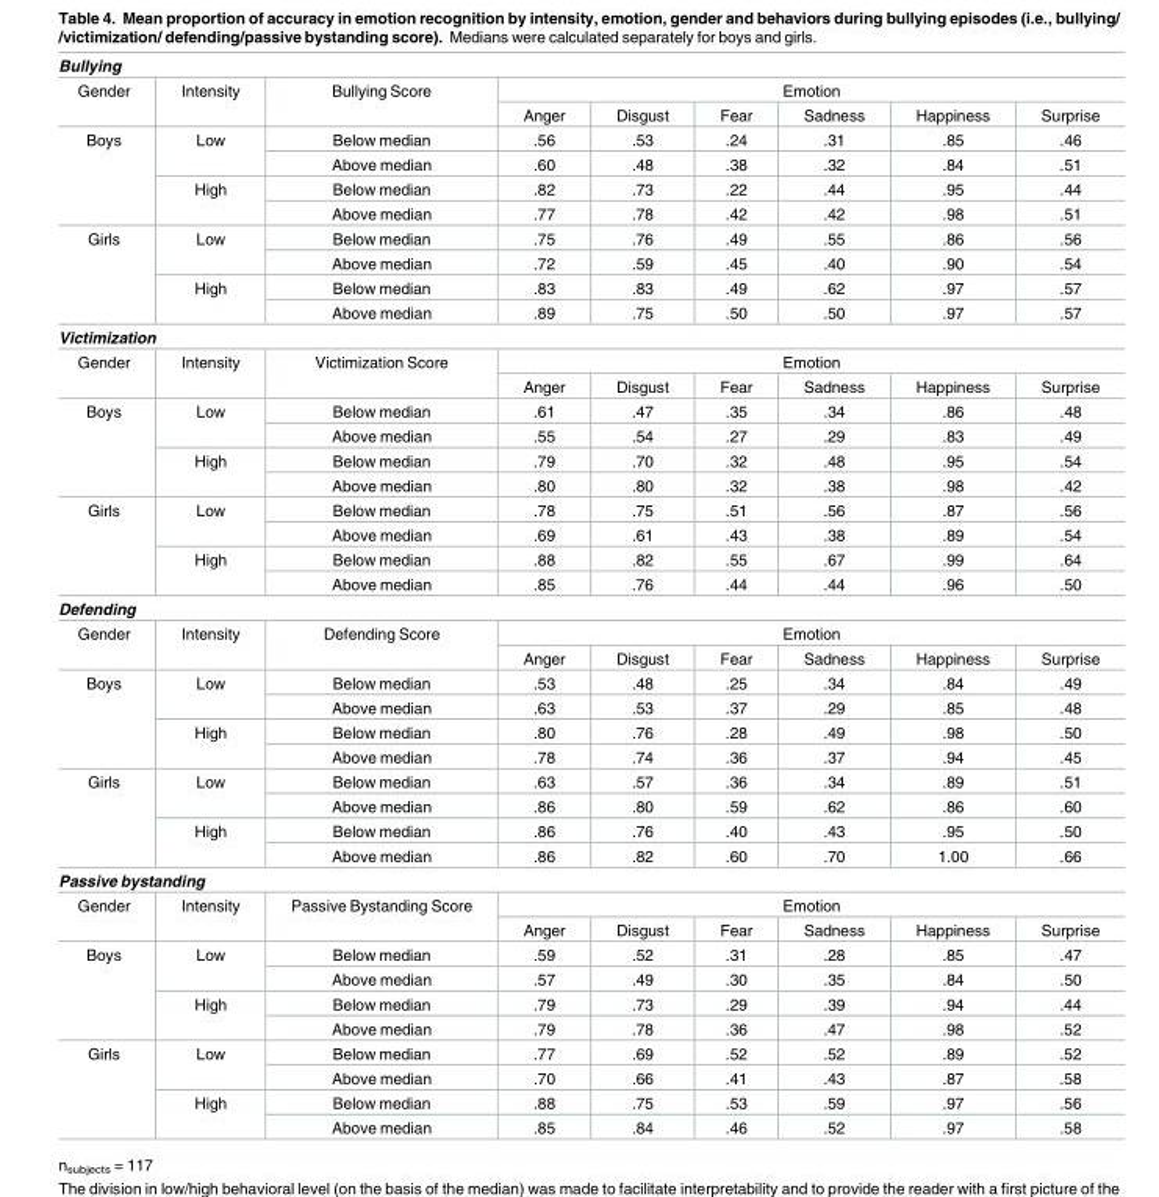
<table><tbody><tr><td colspan="9">Bullying</td></tr><tr><td rowspan="2">Gender</td><td rowspan="2">Intensity</td><td rowspan="2">Bullying Score</td><td colspan="6">Emotion</td></tr><tr><td>Anger</td><td>Disgust</td><td>Fear</td><td>Sadness</td><td>Happiness</td><td>Surprise</td></tr><tr><td rowspan="4">Boys</td><td rowspan="2">Low</td><td>Below median</td><td>.56</td><td>.53</td><td>.24</td><td>.31</td><td>.85</td><td>.46</td></tr><tr><td>Above median</td><td>.60</td><td>.48</td><td>.38</td><td>.32</td><td>.84</td><td>.51</td></tr><tr><td rowspan="2">High</td><td>Below median</td><td>.82</td><td>.73</td><td>.22</td><td>.44</td><td>.95</td><td>.44</td></tr><tr><td>Above median</td><td>.77</td><td>.78</td><td>.42</td><td>.42</td><td>.98</td><td>.51</td></tr><tr><td rowspan="4">Girls</td><td rowspan="2">Low</td><td>Below median</td><td>.75</td><td>.76</td><td>.49</td><td>.55</td><td>.86</td><td>.56</td></tr><tr><td>Above median</td><td>.72</td><td>.59</td><td>.45</td><td>.40</td><td>.90</td><td>.54</td></tr><tr><td rowspan="2">High</td><td>Below median</td><td>.83</td><td>.83</td><td>.49</td><td>.62</td><td>.97</td><td>.57</td></tr><tr><td>Above median</td><td>.89</td><td>.75</td><td>.50</td><td>.50</td><td>.97</td><td>.57</td></tr><tr><td colspan="9">Victimization</td></tr><tr><td rowspan="2">Gender</td><td rowspan="2">Intensity</td><td rowspan="2">Victimization Score</td><td colspan="6">Emotion</td></tr><tr><td>Anger</td><td>Disgust</td><td>Fear</td><td>Sadness</td><td>Happiness</td><td>Surprise</td></tr><tr><td rowspan="4">Boys</td><td rowspan="2">Low</td><td>Below median</td><td>.61</td><td>.47</td><td>.35</td><td>.34</td><td>.86</td><td>.48</td></tr><tr><td>Above median</td><td>.55</td><td>.54</td><td>.27</td><td>.29</td><td>.83</td><td>.49</td></tr><tr><td rowspan="2">High</td><td>Below median</td><td>.79</td><td>.70</td><td>.32</td><td>.48</td><td>.95</td><td>.54</td></tr><tr><td>Above median</td><td>.80</td><td>.80</td><td>.32</td><td>.38</td><td>.98</td><td>.42</td></tr><tr><td rowspan="4">Girls</td><td rowspan="2">Low</td><td>Below median</td><td>.78</td><td>.75</td><td>.51</td><td>.56</td><td>.87</td><td>.56</td></tr><tr><td>Above median</td><td>.69</td><td>.61</td><td>.43</td><td>.38</td><td>.89</td><td>.54</td></tr><tr><td rowspan="2">High</td><td>Below median</td><td>.88</td><td>.82</td><td>.55</td><td>.67</td><td>.99</td><td>.64</td></tr><tr><td>Above median</td><td>.85</td><td>.76</td><td>.44</td><td>.44</td><td>.96</td><td>.50</td></tr><tr><td colspan="9">Defending</td></tr><tr><td rowspan="2">Gender</td><td rowspan="2">Intensity</td><td rowspan="2">Defending Score</td><td colspan="6">Emotion</td></tr><tr><td>Anger</td><td>Disgust</td><td>Fear</td><td>Sadness</td><td>Happiness</td><td>Surprise</td></tr><tr><td rowspan="4">Boys</td><td rowspan="2">Low</td><td>Below median</td><td>.53</td><td>.48</td><td>.25</td><td>.34</td><td>.84</td><td>.49</td></tr><tr><td>Above median</td><td>.63</td><td>.53</td><td>.37</td><td>.29</td><td>.85</td><td>.48</td></tr><tr><td rowspan="2">High</td><td>Below median</td><td>.80</td><td>.76</td><td>.28</td><td>.49</td><td>.98</td><td>.50</td></tr><tr><td>Above median</td><td>.78</td><td>.74</td><td>.36</td><td>.37</td><td>.94</td><td>.45</td></tr><tr><td rowspan="4">Girls</td><td rowspan="2">Low</td><td>Below median</td><td>.63</td><td>.57</td><td>.36</td><td>.34</td><td>.89</td><td>.51</td></tr><tr><td>Above median</td><td>.86</td><td>.80</td><td>.59</td><td>.62</td><td>.86</td><td>.60</td></tr><tr><td rowspan="2">High</td><td>Below median</td><td>.86</td><td>.76</td><td>.40</td><td>.43</td><td>.95</td><td>.50</td></tr><tr><td>Above median</td><td>.86</td><td>.82</td><td>.60</td><td>.70</td><td>1.00</td><td>.66</td></tr><tr><td colspan="9">Passive bystanding</td></tr><tr><td rowspan="2">Gender</td><td rowspan="2">Intensity</td><td rowspan="2">Passive Bystanding Score</td><td colspan="6">Emotion</td></tr><tr><td>Anger</td><td>Disgust</td><td>Fear</td><td>Sadness</td><td>Happiness</td><td>Surprise</td></tr><tr><td rowspan="4">Boys</td><td rowspan="2">Low</td><td>Below median</td><td>.59</td><td>.52</td><td>.31</td><td>.28</td><td>.85</td><td>.47</td></tr><tr><td>Above median</td><td>.57</td><td>.49</td><td>.30</td><td>.35</td><td>.84</td><td>.50</td></tr><tr><td rowspan="2">High</td><td>Below median</td><td>.79</td><td>.73</td><td>.29</td><td>.39</td><td>.94</td><td>.44</td></tr><tr><td>Above median</td><td>.79</td><td>.78</td><td>.36</td><td>.47</td><td>.98</td><td>.52</td></tr><tr><td rowspan="4">Girls</td><td rowspan="2">Low</td><td>Below median</td><td>.77</td><td>.69</td><td>.52</td><td>.52</td><td>.89</td><td>.52</td></tr><tr><td>Above median</td><td>.70</td><td>.66</td><td>.41</td><td>.43</td><td>.87</td><td>.58</td></tr><tr><td rowspan="2">High</td><td>Below median</td><td>.88</td><td>.75</td><td>.53</td><td>.59</td><td>.97</td><td>.56</td></tr><tr><td>Above median</td><td>.85</td><td>.84</td><td>.46</td><td>.52</td><td>.97</td><td>.58</td></tr></tbody></table>